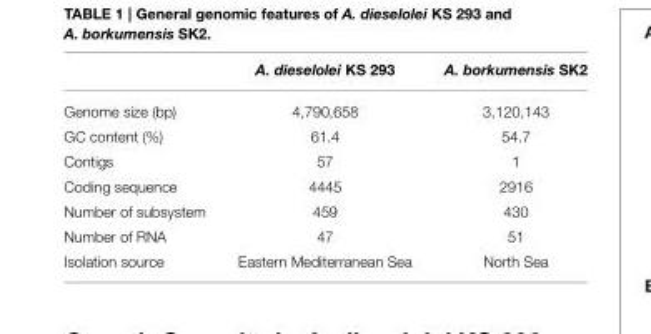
<table><thead><tr><td></td><td>A. dieselolei KS 293</td><td>A. borkumensis SK2</td></tr></thead><tbody><tr><td>Genome size (bp)</td><td>4,790,658</td><td>3,120,143</td></tr><tr><td>GC content (%)</td><td>61.4</td><td>54.7</td></tr><tr><td>Contigs</td><td>57</td><td>1</td></tr><tr><td>Coding sequence</td><td>4445</td><td>2916</td></tr><tr><td>Number of subsystem</td><td>459</td><td>430</td></tr><tr><td>Number of RNA</td><td>47</td><td>51</td></tr><tr><td>Isolation source</td><td>Eastern Mediterranean Sea</td><td>North Sea</td></tr></tbody></table>